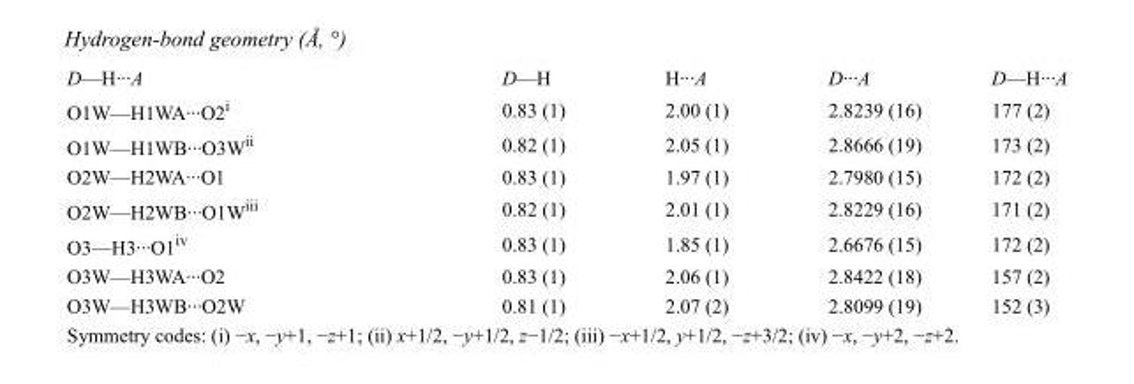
<table><tbody><tr><td>D—H···A</td><td>D—H</td><td>H···A</td><td>D···A</td><td>D—H···A</td></tr><tr><td>O1W—H1WA···O2<sup>i</sup></td><td>0.83 (1)</td><td>2.00 (1)</td><td>2.8239 (16)</td><td>177 (2)</td></tr><tr><td>O1W—H1WB···O3W<sup>ii</sup></td><td>0.82 (1)</td><td>2.05 (1)</td><td>2.8666 (19)</td><td>173 (2)</td></tr><tr><td>O2W—H2WA···O1</td><td>0.83 (1)</td><td>1.97 (1)</td><td>2.7980 (15)</td><td>172 (2)</td></tr><tr><td>O2W—H2WB···O1W<sup>iii</sup></td><td>0.82 (1)</td><td>2.01 (1)</td><td>2.8229 (16)</td><td>171 (2)</td></tr><tr><td>O3—H3···O1<sup>iv</sup></td><td>0.83 (1)</td><td>1.85 (1)</td><td>2.6676 (15)</td><td>172 (2)</td></tr><tr><td>O3W—H3WA···O2</td><td>0.83 (1)</td><td>2.06 (1)</td><td>2.8422 (18)</td><td>157 (2)</td></tr><tr><td>O3W—H3WB···O2W</td><td>0.81 (1)</td><td>2.07 (2)</td><td>2.8099 (19)</td><td>152 (3)</td></tr></tbody></table>